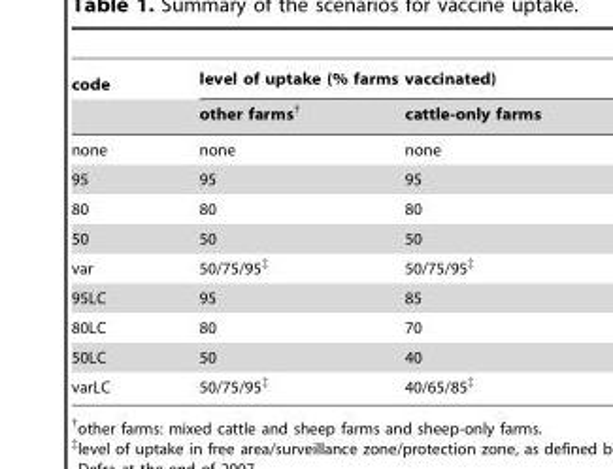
<table><thead><tr><td rowspan="2">code</td><td colspan="2">level of uptake (% farms vaccinated)</td></tr><tr><td>other farms†</td><td>cattle-only farms</td></tr></thead><tbody><tr><td>none</td><td>none</td><td>none</td></tr><tr><td>95</td><td>95</td><td>95</td></tr><tr><td>80</td><td>80</td><td>80</td></tr><tr><td>50</td><td>50</td><td>50</td></tr><tr><td>var</td><td>50/75/95‡</td><td>50/75/95‡</td></tr><tr><td>95LC</td><td>95</td><td>85</td></tr><tr><td>80LC</td><td>80</td><td>70</td></tr><tr><td>50LC</td><td>50</td><td>40</td></tr><tr><td>varLC</td><td>50/75/95‡</td><td>40/65/85‡</td></tr></tbody></table>